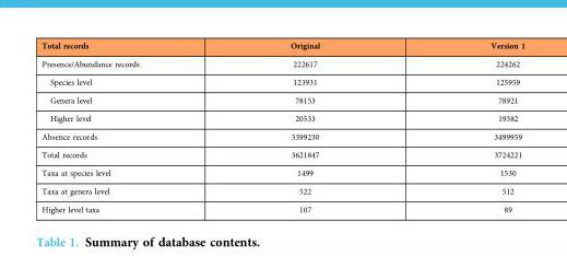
<table><thead><tr><td>Total records</td><td>Original</td><td>Version 1</td></tr></thead><tbody><tr><td>Presence/Abundance records</td><td>222617</td><td>224262</td></tr><tr><td>Species level</td><td>123931</td><td>125959</td></tr><tr><td>Genera level</td><td>78153</td><td>78921</td></tr><tr><td>Higher level</td><td>20533</td><td>19382</td></tr><tr><td>Absence records</td><td>3399230</td><td>3499959</td></tr><tr><td>Total records</td><td>3621847</td><td>3724221</td></tr><tr><td>Taxa at species level</td><td>1499</td><td>1530</td></tr><tr><td>Taxa at genera level</td><td>522</td><td>512</td></tr><tr><td>Higher level taxa</td><td>107</td><td>89</td></tr></tbody></table>